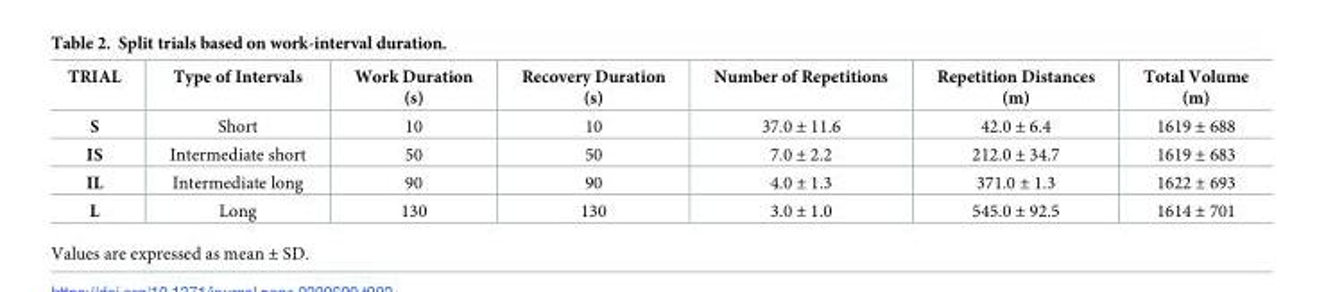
<table><thead><tr><td>TRIAL</td><td>Type of Intervals</td><td>Work Duration (s)</td><td>Recovery Duration (s)</td><td>Number of Repetitions</td><td>Repetition Distances (m)</td><td>Total Volume (m)</td></tr></thead><tbody><tr><td>S</td><td>Short</td><td>10</td><td>10</td><td>37.0 ± 11.6</td><td>42.0 ± 6.4</td><td>1619 ± 688</td></tr><tr><td>IS</td><td>Intermediate short</td><td>50</td><td>50</td><td>7.0 ± 2.2</td><td>212.0 ± 34.7</td><td>1619 ± 683</td></tr><tr><td>IL</td><td>Intermediate long</td><td>90</td><td>90</td><td>4.0 ± 1.3</td><td>371.0 ± 1.3</td><td>1622 ± 693</td></tr><tr><td>L</td><td>Long</td><td>130</td><td>130</td><td>3.0 ± 1.0</td><td>545.0 ± 92.5</td><td>1614 ± 701</td></tr></tbody></table>